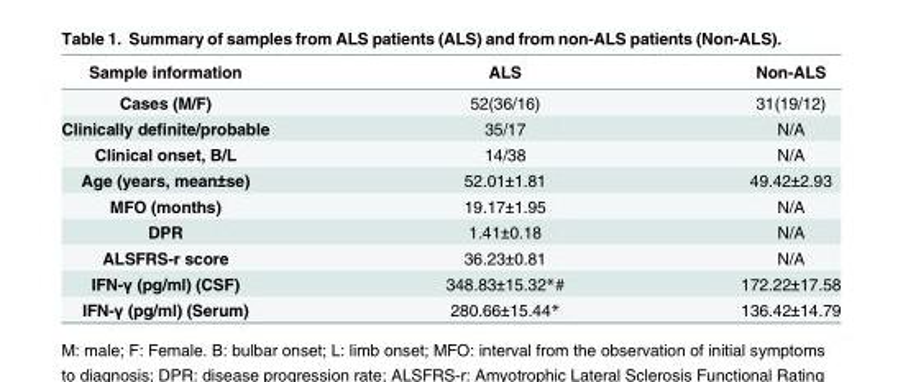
<table><thead><tr><td>Sample information</td><td>ALS</td><td>Non-ALS</td></tr></thead><tbody><tr><td>Cases (M/F)</td><td>52(36/16)</td><td>31(19/12)</td></tr><tr><td>Clinically definite/probable</td><td>35/17</td><td>N/A</td></tr><tr><td>Clinical onset, B/L</td><td>14/38</td><td>N/A</td></tr><tr><td>Age (years, mean±se)</td><td>52.01±1.81</td><td>49.42±2.93</td></tr><tr><td>MFO (months)</td><td>19.17±1.95</td><td>N/A</td></tr><tr><td>DPR</td><td>1.41±0.18</td><td>N/A</td></tr><tr><td>ALSFRS-r score</td><td>36.23±0.81</td><td>N/A</td></tr><tr><td>IFN-γ (pg/ml) (CSF)</td><td>348.83±15.32*#</td><td>172.22±17.58</td></tr><tr><td>IFN-γ (pg/ml) (Serum)</td><td>280.66±15.44*</td><td>136.42±14.79</td></tr></tbody></table>